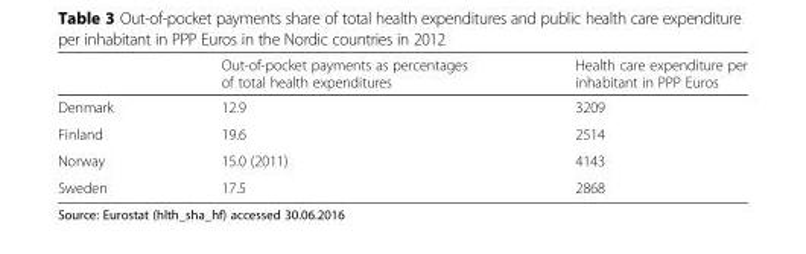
<table><thead><tr><td></td><td>Out-of-pocket payments as percentages of total health expenditures</td><td>Health care expenditure per inhabitant in PPP Euros</td></tr></thead><tbody><tr><td>Denmark</td><td>12.9</td><td>3209</td></tr><tr><td>Finland</td><td>19.6</td><td>2514</td></tr><tr><td>Norway</td><td>15.0 (2011)</td><td>4143</td></tr><tr><td>Sweden</td><td>17.5</td><td>2868</td></tr></tbody></table>